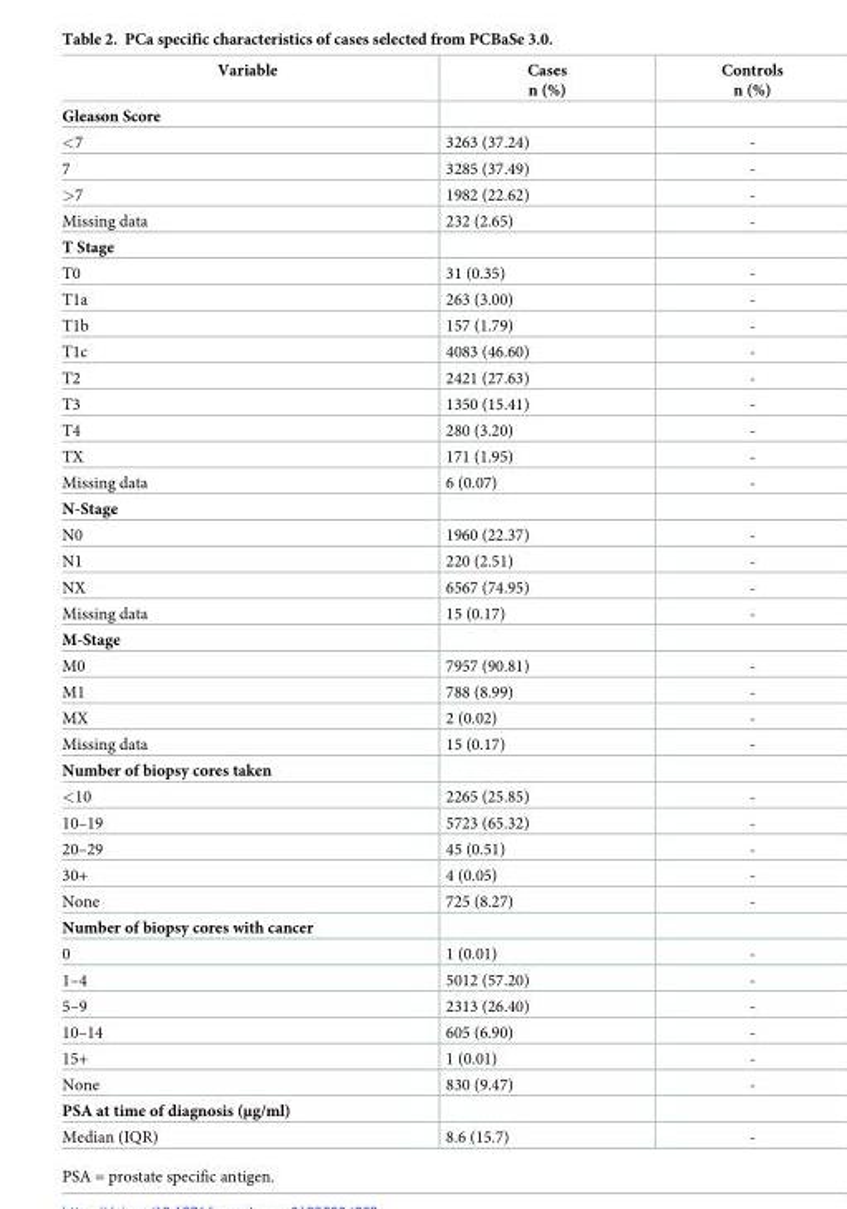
<table><thead><tr><td>Variable</td><td>Cases n (%)</td><td>Controls n (%)</td></tr></thead><tbody><tr><td colspan="3">Gleason Score</td></tr><tr><td>&lt;7</td><td>3263 (37.24)</td><td>-</td></tr><tr><td>7</td><td>3285 (37.49)</td><td>-</td></tr><tr><td>&gt;7</td><td>1982 (22.62)</td><td>-</td></tr><tr><td>Missing data</td><td>232 (2.65)</td><td>-</td></tr><tr><td colspan="3">T Stage</td></tr><tr><td>T0</td><td>31 (0.35)</td><td>-</td></tr><tr><td>T1a</td><td>263 (3.00)</td><td>-</td></tr><tr><td>T1b</td><td>157 (1.79)</td><td>-</td></tr><tr><td>T1c</td><td>4083 (46.60)</td><td>-</td></tr><tr><td>T2</td><td>2421 (27.63)</td><td>-</td></tr><tr><td>T3</td><td>1350 (15.41)</td><td>-</td></tr><tr><td>T4</td><td>280 (3.20)</td><td>-</td></tr><tr><td>TX</td><td>171 (1.95)</td><td>-</td></tr><tr><td>Missing data</td><td>6 (0.07)</td><td>-</td></tr><tr><td colspan="3">N-Stage</td></tr><tr><td>N0</td><td>1960 (22.37)</td><td>-</td></tr><tr><td>N1</td><td>220 (2.51)</td><td>-</td></tr><tr><td>NX</td><td>6567 (74.95)</td><td>-</td></tr><tr><td>Missing data</td><td>15 (0.17)</td><td>-</td></tr><tr><td colspan="3">M-Stage</td></tr><tr><td>M0</td><td>7957 (90.81)</td><td>-</td></tr><tr><td>M1</td><td>788 (8.99)</td><td>-</td></tr><tr><td>MX</td><td>2 (0.02)</td><td>-</td></tr><tr><td>Missing data</td><td>15 (0.17)</td><td>-</td></tr><tr><td colspan="3">Number of biopsy cores taken</td></tr><tr><td>&lt;10</td><td>2265 (25.85)</td><td>-</td></tr><tr><td>10–19</td><td>5723 (65.32)</td><td>-</td></tr><tr><td>20–29</td><td>45 (0.51)</td><td>-</td></tr><tr><td>30+</td><td>4 (0.05)</td><td>-</td></tr><tr><td>None</td><td>725 (8.27)</td><td>-</td></tr><tr><td colspan="3">Number of biopsy cores with cancer</td></tr><tr><td>0</td><td>1 (0.01)</td><td>-</td></tr><tr><td>1–4</td><td>5012 (57.20)</td><td>-</td></tr><tr><td>5–9</td><td>2313 (26.40)</td><td>-</td></tr><tr><td>10–14</td><td>605 (6.90)</td><td>-</td></tr><tr><td>15+</td><td>1 (0.01)</td><td>-</td></tr><tr><td>None</td><td>830 (9.47)</td><td>-</td></tr><tr><td colspan="3">PSA at time of diagnosis (μg/ml)</td></tr><tr><td>Median (IQR)</td><td>8.6 (15.7)</td><td>-</td></tr></tbody></table>